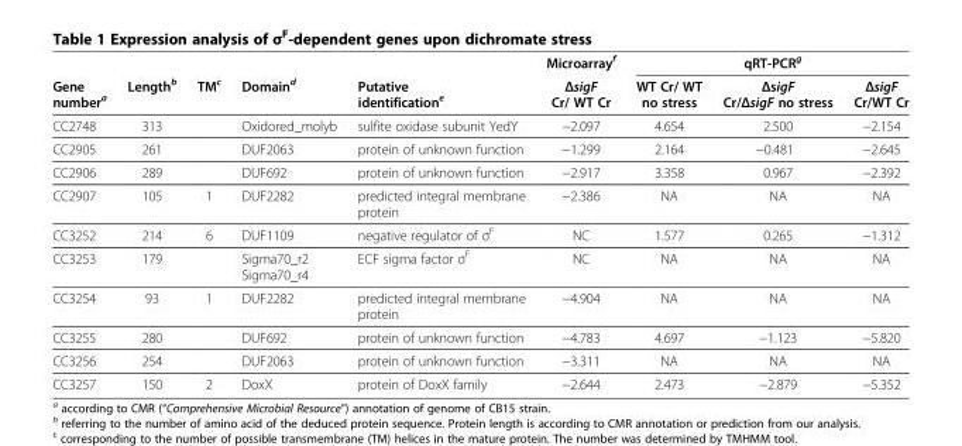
<table><thead><tr><td rowspan="2">Gene number<sup>a</sup></td><td rowspan="2">Length<sup>b</sup></td><td rowspan="2">TM<sup>c</sup></td><td rowspan="2">Domain<sup>d</sup></td><td rowspan="2">Putative identification<sup>e</sup></td><td rowspan="2">Microarray<sup>f</sup> ΔsigF Cr/ WT Cr</td><td colspan="3">qRT-PCR<sup>g</sup></td></tr><tr><td>WT Cr/ WT no stress</td><td>ΔsigF Cr/ΔsigF no stress</td><td>ΔsigF Cr/WT Cr</td></tr></thead><tbody><tr><td>CC2748</td><td>313</td><td></td><td>Oxidored_molyb</td><td>sulfite oxidase subunit YedY</td><td>−2.097</td><td>4.654</td><td>2.500</td><td>−2.154</td></tr><tr><td>CC2905</td><td>261</td><td></td><td>DUF2063</td><td>protein of unknown function</td><td>−1.299</td><td>2.164</td><td>−0.481</td><td>−2.645</td></tr><tr><td>CC2906</td><td>289</td><td></td><td>DUF692</td><td>protein of unknown function</td><td>−2.917</td><td>3.358</td><td>0.967</td><td>−2.392</td></tr><tr><td>CC2907</td><td>105</td><td>1</td><td>DUF2282</td><td>predicted integral membrane protein</td><td>−2.386</td><td>NA</td><td>NA</td><td>NA</td></tr><tr><td>CC3252</td><td>214</td><td>6</td><td>DUF1109</td><td>negative regulator of σ<sup>F</sup></td><td>NC</td><td>1.577</td><td>0.265</td><td>−1.312</td></tr><tr><td>CC3253</td><td>179</td><td></td><td>Sigma70_r2 Sigma70_r4</td><td>ECF sigma factor σ<sup>F</sup></td><td>NC</td><td>NA</td><td>NA</td><td>NA</td></tr><tr><td>CC3254</td><td>93</td><td>1</td><td>DUF2282</td><td>predicted integral membrane protein</td><td>−4.904</td><td>NA</td><td>NA</td><td>NA</td></tr><tr><td>CC3255</td><td>280</td><td></td><td>DUF692</td><td>protein of unknown function</td><td>−4.783</td><td>4.697</td><td>−1.123</td><td>−5.820</td></tr><tr><td>CC3256</td><td>254</td><td></td><td>DUF2063</td><td>protein of unknown function</td><td>−3.311</td><td>NA</td><td>NA</td><td>NA</td></tr><tr><td>CC3257</td><td>150</td><td>2</td><td>DoxX</td><td>protein of DoxX family</td><td>−2.644</td><td>2.473</td><td>−2.879</td><td>−5.352</td></tr></tbody></table>